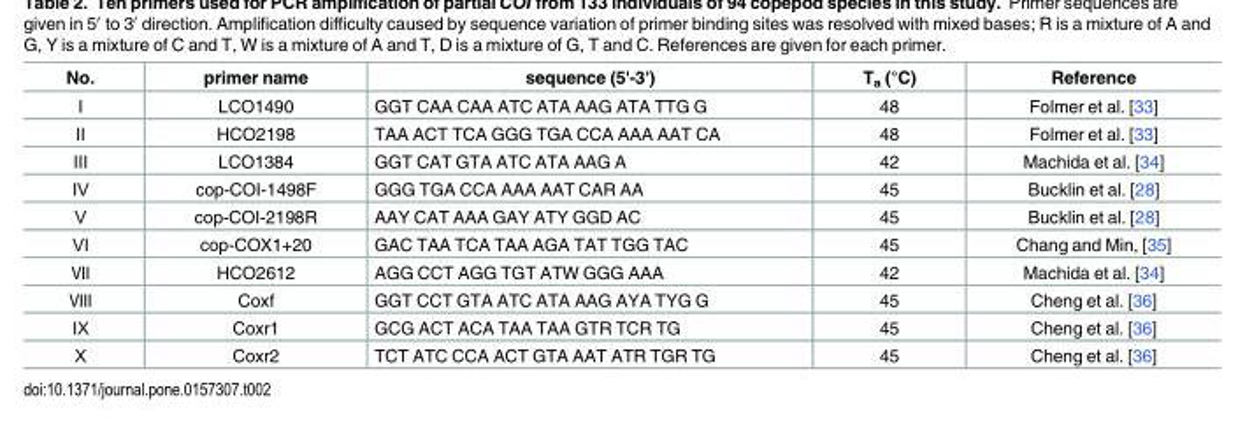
<table><thead><tr><td>No.</td><td>primer name</td><td>sequence (5&#x27;-3&#x27;)</td><td>T<sub>a</sub> (°C)</td><td>Reference</td></tr></thead><tbody><tr><td>Ⅰ</td><td>LCO1490</td><td>GGT CAA CAA ATC ATA AAG ATA TTG G</td><td>48</td><td>Folmer et al. [33]</td></tr><tr><td>Ⅱ</td><td>HCO2198</td><td>TAA ACT TCA GGG TGA CCA AAA AAT CA</td><td>48</td><td>Folmer et al. [33]</td></tr><tr><td>Ⅲ</td><td>LCO1384</td><td>GGT CAT GTA ATC ATA AAG A</td><td>42</td><td>Machida et al. [34]</td></tr><tr><td>Ⅳ</td><td>cop-COI-1498F</td><td>GGG TGA CCA AAA AAT CAR AA</td><td>45</td><td>Bucklin et al. [28]</td></tr><tr><td>Ⅴ</td><td>cop-COI-2198R</td><td>AAY CAT AAA GAY ATY GGD AC</td><td>45</td><td>Bucklin et al. [28]</td></tr><tr><td>Ⅵ</td><td>cop-COX1+20</td><td>GAC TAA TCA TAA AGA TAT TGG TAC</td><td>45</td><td>Chang and Min, [35]</td></tr><tr><td>Ⅶ</td><td>HCO2612</td><td>AGG CCT AGG TGT ATW GGG AAA</td><td>42</td><td>Machida et al. [34]</td></tr><tr><td>Ⅷ</td><td>Coxf</td><td>GGT CCT GTA ATC ATA AAG AYA TYG G</td><td>45</td><td>Cheng et al. [36]</td></tr><tr><td>Ⅸ</td><td>Coxr1</td><td>GCG ACT ACA TAA TAA GTR TCR TG</td><td>45</td><td>Cheng et al. [36]</td></tr><tr><td>Ⅹ</td><td>Coxr2</td><td>TCT ATC CCA ACT GTA AAT ATR TGR TG</td><td>45</td><td>Cheng et al. [36]</td></tr></tbody></table>